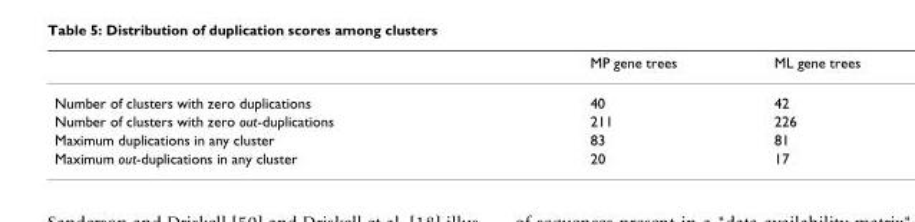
<table><thead><tr><td></td><td>MP gene trees</td><td>ML gene trees</td></tr></thead><tbody><tr><td>Number of clusters with zero duplications</td><td>40</td><td>42</td></tr><tr><td>Number of clusters with zero out-duplications</td><td>211</td><td>226</td></tr><tr><td>Maximum duplications in any cluster</td><td>83</td><td>81</td></tr><tr><td>Maximum out-duplications in any cluster</td><td>20</td><td>17</td></tr></tbody></table>